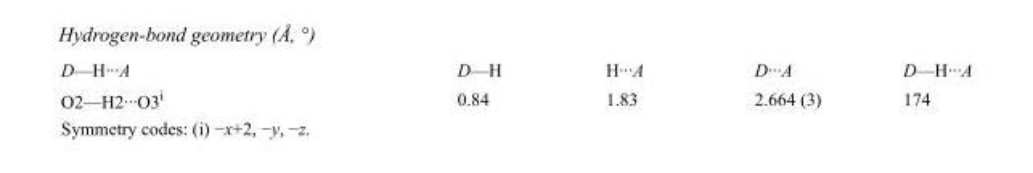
<table><tbody><tr><td>D—H···A</td><td>D—H</td><td>H···A</td><td>D···A</td><td>D—H···A</td></tr><tr><td>O2—H2···O3<sup>i</sup></td><td>0.84</td><td>1.83</td><td>2.664 (3)</td><td>174</td></tr></tbody></table>